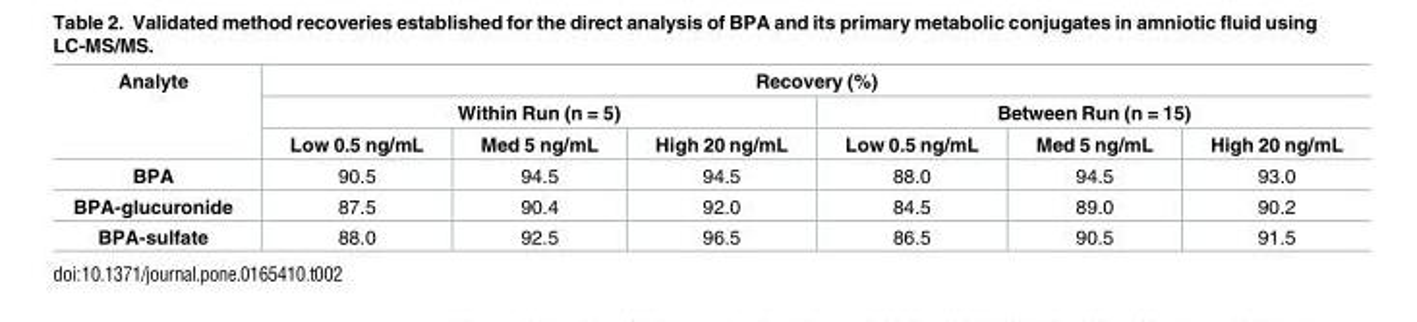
<table><thead><tr><td rowspan="3">Analyte</td><td colspan="6">Recovery (%)</td></tr><tr><td colspan="3">Within Run (n = 5)</td><td colspan="3">Between Run (n = 15)</td></tr><tr><td>Low 0.5 ng/mL</td><td>Med 5 ng/mL</td><td>High 20 ng/mL</td><td>Low 0.5 ng/mL</td><td>Med 5 ng/mL</td><td>High 20 ng/mL</td></tr></thead><tbody><tr><td>BPA</td><td>90.5</td><td>94.5</td><td>94.5</td><td>88.0</td><td>94.5</td><td>93.0</td></tr><tr><td>BPA-glucuronide</td><td>87.5</td><td>90.4</td><td>92.0</td><td>84.5</td><td>89.0</td><td>90.2</td></tr><tr><td>BPA-sulfate</td><td>88.0</td><td>92.5</td><td>96.5</td><td>86.5</td><td>90.5</td><td>91.5</td></tr></tbody></table>